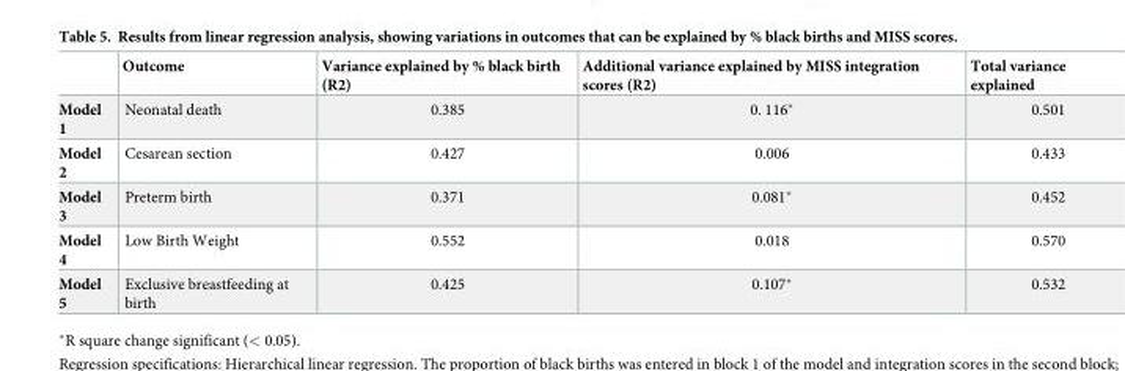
<table><thead><tr><td></td><td>Outcome</td><td>Variance explained by % black birth (R2)</td><td>Additional variance explained by MISS integration scores (R2)</td><td>Total variance explained</td></tr></thead><tbody><tr><td>Model 1</td><td>Neonatal death</td><td>0.385</td><td>0. 116*</td><td>0.501</td></tr><tr><td>Model 2</td><td>Cesarean section</td><td>0.427</td><td>0.006</td><td>0.433</td></tr><tr><td>Model 3</td><td>Preterm birth</td><td>0.371</td><td>0.081*</td><td>0.452</td></tr><tr><td>Model 4</td><td>Low Birth Weight</td><td>0.552</td><td>0.018</td><td>0.570</td></tr><tr><td>Model 5</td><td>Exclusive breastfeeding at birth</td><td>0.425</td><td>0.107*</td><td>0.532</td></tr></tbody></table>